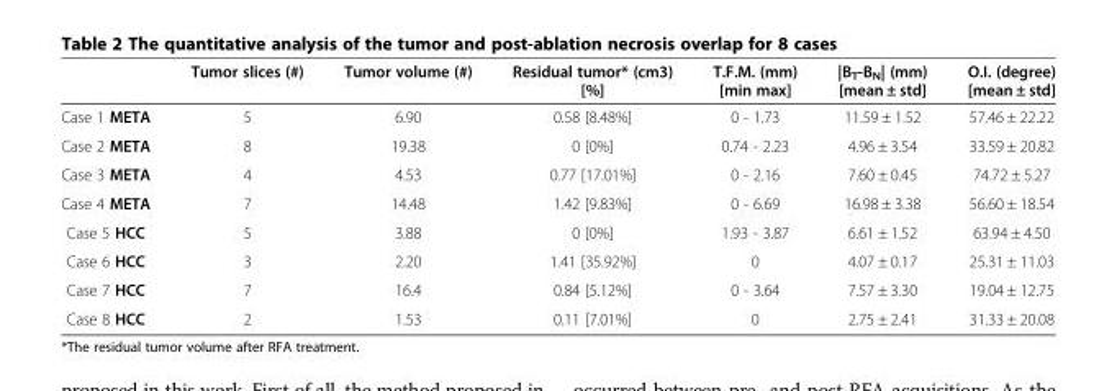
<table><thead><tr><td></td><td>Tumor slices (#)</td><td>Tumor volume (#)</td><td>Residual tumor* (cm3) [%]</td><td>T.F.M. (mm) [min max]</td><td>|B<sub>T</sub>-B<sub>N</sub>| (mm) [mean ± std]</td><td>O.I. (degree) [mean ± std]</td></tr></thead><tbody><tr><td>Case 1 META</td><td>5</td><td>6.90</td><td>0.58 [8.48%]</td><td>0 - 1.73</td><td>11.59 ± 1.52</td><td>57.46 ± 22.22</td></tr><tr><td>Case 2 META</td><td>8</td><td>19.38</td><td>0 [0%]</td><td>0.74 - 2.23</td><td>4.96 ± 3.54</td><td>33.59 ± 20.82</td></tr><tr><td>Case 3 META</td><td>4</td><td>4.53</td><td>0.77 [17.01%]</td><td>0 - 2.16</td><td>7.60 ± 0.45</td><td>74.72 ± 5.27</td></tr><tr><td>Case 4 META</td><td>7</td><td>14.48</td><td>1.42 [9.83%]</td><td>0 - 6.69</td><td>16.98 ± 3.38</td><td>56.60 ± 18.54</td></tr><tr><td>Case 5 HCC</td><td>5</td><td>3.88</td><td>0 [0%]</td><td>1.93 - 3.87</td><td>6.61 ± 1.52</td><td>63.94 ± 4.50</td></tr><tr><td>Case 6 HCC</td><td>3</td><td>2.20</td><td>1.41 [35.92%]</td><td>0</td><td>4.07 ± 0.17</td><td>25.31 ± 11.03</td></tr><tr><td>Case 7 HCC</td><td>7</td><td>16.4</td><td>0.84 [5.12%]</td><td>0 - 3.64</td><td>7.57 ± 3.30</td><td>19.04 ± 12.75</td></tr><tr><td>Case 8 HCC</td><td>2</td><td>1.53</td><td>0.11 [7.01%]</td><td>0</td><td>2.75 ± 2.41</td><td>31.33 ± 20.08</td></tr></tbody></table>